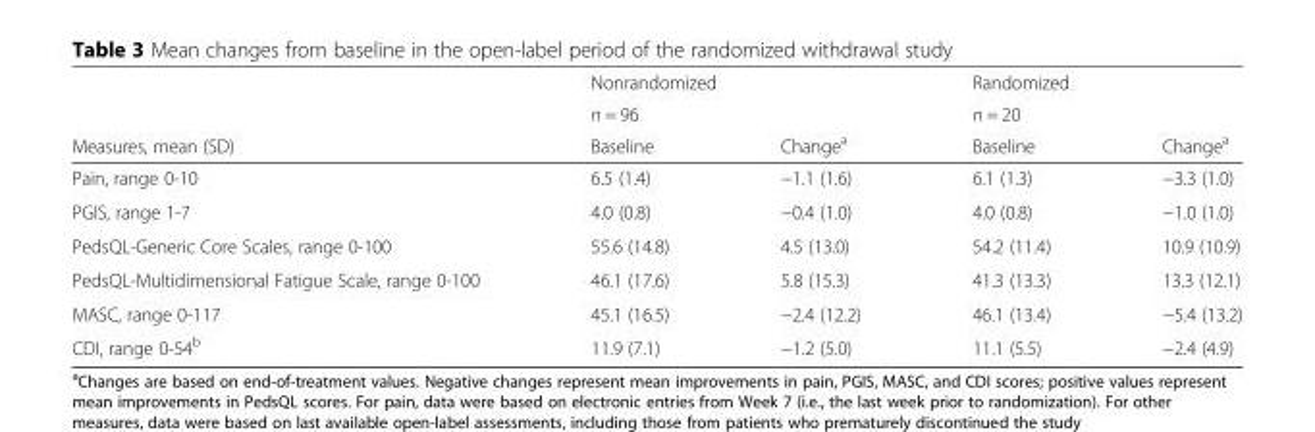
<table><thead><tr><td rowspan="3">Measures, mean (SD)</td><td rowspan="2" colspan="2">Nonrandomized n = 96</td><td rowspan="2" colspan="2">Randomized n = 20</td></tr><tr></tr><tr><td>Baseline</td><td>Change<sup>a</sup></td><td>Baseline</td><td>Change<sup>a</sup></td></tr></thead><tbody><tr><td>Pain, range 0-10</td><td>6.5 (1.4)</td><td>−1.1 (1.6)</td><td>6.1 (1.3)</td><td>−3.3 (1.0)</td></tr><tr><td>PGIS, range 1-7</td><td>4.0 (0.8)</td><td>−0.4 (1.0)</td><td>4.0 (0.8)</td><td>−1.0 (1.0)</td></tr><tr><td>PedsQL-Generic Core Scales, range 0-100</td><td>55.6 (14.8)</td><td>4.5 (13.0)</td><td>54.2 (11.4)</td><td>10.9 (10.9)</td></tr><tr><td>PedsQL-Multidimensional Fatigue Scale, range 0-100</td><td>46.1 (17.6)</td><td>5.8 (15.3)</td><td>41.3 (13.3)</td><td>13.3 (12.1)</td></tr><tr><td>MASC, range 0-117</td><td>45.1 (16.5)</td><td>−2.4 (12.2)</td><td>46.1 (13.4)</td><td>−5.4 (13.2)</td></tr><tr><td>CDI, range 0-54<sup>b</sup></td><td>11.9 (7.1)</td><td>−1.2 (5.0)</td><td>11.1 (5.5)</td><td>−2.4 (4.9)</td></tr></tbody></table>